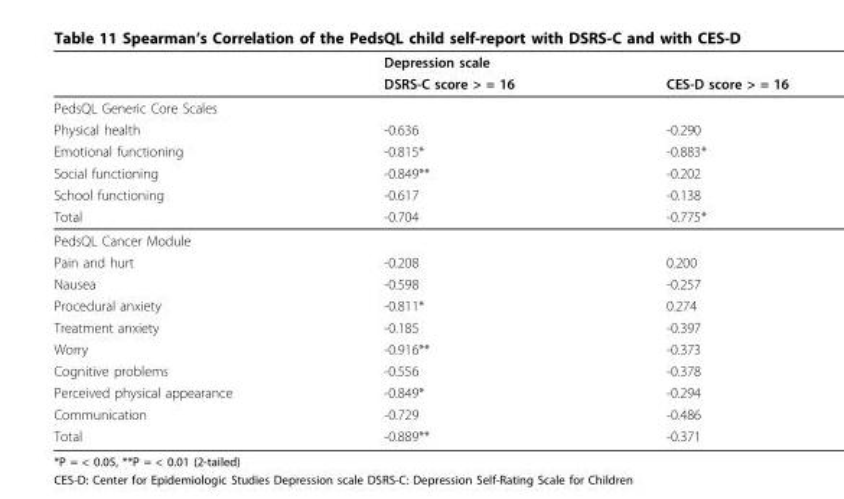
<table><thead><tr><td rowspan="2"></td><td colspan="2">Depression scale</td></tr><tr><td>DSRS-C score &gt; = 16</td><td>CES-D score &gt; = 16</td></tr></thead><tbody><tr><td colspan="3">PedsQL Generic Core Scales</td></tr><tr><td>Physical health</td><td>-0.636</td><td>-0.290</td></tr><tr><td>Emotional functioning</td><td>-0.815*</td><td>-0.883*</td></tr><tr><td>Social functioning</td><td>-0.849**</td><td>-0.202</td></tr><tr><td>School functioning</td><td>-0.617</td><td>-0.138</td></tr><tr><td>Total</td><td>-0.704</td><td>-0.775*</td></tr><tr><td colspan="3">PedsQL Cancer Module</td></tr><tr><td>Pain and hurt</td><td>-0.208</td><td>0.200</td></tr><tr><td>Nausea</td><td>-0.598</td><td>-0.257</td></tr><tr><td>Procedural anxiety</td><td>-0.811*</td><td>0.274</td></tr><tr><td>Treatment anxiety</td><td>-0.185</td><td>-0.397</td></tr><tr><td>Worry</td><td>-0.916**</td><td>-0.373</td></tr><tr><td>Cognitive problems</td><td>-0.556</td><td>-0.378</td></tr><tr><td>Perceived physical appearance</td><td>-0.849*</td><td>-0.294</td></tr><tr><td>Communication</td><td>-0.729</td><td>-0.486</td></tr><tr><td>Total</td><td>-0.889**</td><td>-0.371</td></tr></tbody></table>